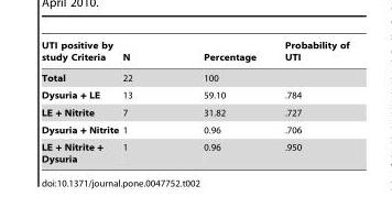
<table><thead><tr><td>UTI positive by study Criteria</td><td>N</td><td>Percentage</td><td>Probability of UTI</td></tr></thead><tbody><tr><td>Total</td><td>22</td><td>100</td><td></td></tr><tr><td>Dysuria + LE</td><td>13</td><td>59.10</td><td>.784</td></tr><tr><td>LE + Nitrite</td><td>7</td><td>31.82</td><td>.727</td></tr><tr><td>Dysuria + Nitrite</td><td>1</td><td>0.96</td><td>.706</td></tr><tr><td>LE + Nitrite + Dysuria</td><td>1</td><td>0.96</td><td>.950</td></tr></tbody></table>